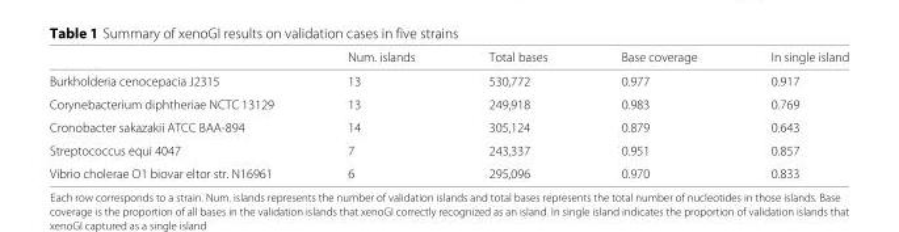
<table><thead><tr><td></td><td>Num. islands</td><td>Total bases</td><td>Base coverage</td><td>In single island</td></tr></thead><tbody><tr><td>Burkholderia cenocepacia J2315</td><td>13</td><td>530,772</td><td>0.977</td><td>0.917</td></tr><tr><td>Corynebacterium diphtheriae NCTC 13129</td><td>13</td><td>249,918</td><td>0.983</td><td>0.769</td></tr><tr><td>Cronobacter sakazakii ATCC BAA-894</td><td>14</td><td>305,124</td><td>0.879</td><td>0.643</td></tr><tr><td>Streptococcus equi 4047</td><td>7</td><td>243,337</td><td>0.951</td><td>0.857</td></tr><tr><td>Vibrio cholerae O1 biovar eltor str. N16961</td><td>6</td><td>295,096</td><td>0.970</td><td>0.833</td></tr></tbody></table>